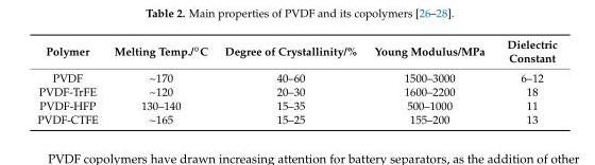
<table><thead><tr><td>Polymer</td><td>Melting Temp./◦C</td><td>Degree of Crystallinity/%</td><td>Young Modulus/MPa</td><td>Dielectric Constant</td></tr></thead><tbody><tr><td>PVDF</td><td>~170</td><td>40–60</td><td>1500–3000</td><td>6–12</td></tr><tr><td>PVDF-TrFE</td><td>~120</td><td>20–30</td><td>1600–2200</td><td>18</td></tr><tr><td>PVDF-HFP</td><td>130–140</td><td>15–35</td><td>500–1000</td><td>11</td></tr><tr><td>PVDF-CTFE</td><td>~165</td><td>15–25</td><td>155–200</td><td>13</td></tr></tbody></table>